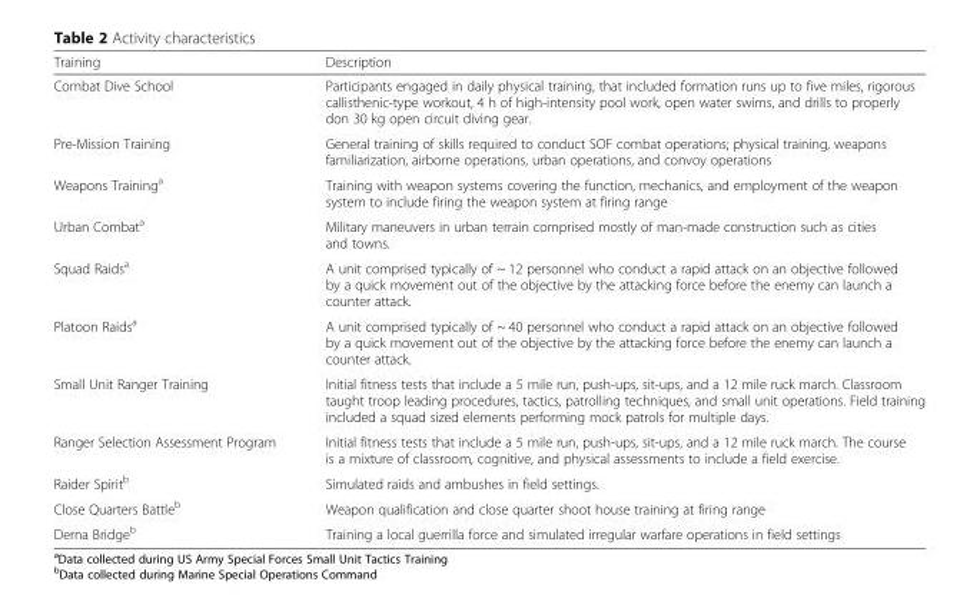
<table><thead><tr><td>Training</td><td>Description</td></tr></thead><tbody><tr><td>Combat Dive School</td><td>Participants engaged in daily physical training, that included formation runs up to five miles, rigorous callisthenic-type workout, 4 h of high-intensity pool work, open water swims, and drills to properly don 30 kg open circuit diving gear.</td></tr><tr><td>Pre-Mission Training</td><td>General training of skills required to conduct SOF combat operations; physical training, weapons familiarization, airborne operations, urban operations, and convoy operations</td></tr><tr><td>Weapons Training<sup>a</sup></td><td>Training with weapon systems covering the function, mechanics, and employment of the weapon system to include firing the weapon system at firing range</td></tr><tr><td>Urban Combat<sup>a</sup></td><td>Military maneuvers in urban terrain comprised mostly of man-made construction such as cities and towns.</td></tr><tr><td>Squad Raids<sup>a</sup></td><td>A unit comprised typically of ~ 12 personnel who conduct a rapid attack on an objective followed by a quick movement out of the objective by the attacking force before the enemy can launch a counter attack.</td></tr><tr><td>Platoon Raids<sup>a</sup></td><td>A unit comprised typically of ~ 40 personnel who conduct a rapid attack on an objective followed by a quick movement out of the objective by the attacking force before the enemy can launch a counter attack.</td></tr><tr><td>Small Unit Ranger Training</td><td>Initial fitness tests that include a 5 mile run, push-ups, sit-ups, and a 12 mile ruck march. Classroom taught troop leading procedures, tactics, patrolling techniques, and small unit operations. Field training included a squad sized elements performing mock patrols for multiple days.</td></tr><tr><td>Ranger Selection Assessment Program</td><td>Initial fitness tests that include a 5 mile run, push-ups, sit-ups, and a 12 mile ruck march. The course is a mixture of classroom, cognitive, and physical assessments to include a field exercise.</td></tr><tr><td>Raider Spirit<sup>b</sup></td><td>Simulated raids and ambushes in field settings.</td></tr><tr><td>Close Quarters Battle<sup>b</sup></td><td>Weapon qualification and close quarter shoot house training at firing range</td></tr><tr><td>Derna Bridge<sup>b</sup></td><td>Training a local guerrilla force and simulated irregular warfare operations in field settings</td></tr></tbody></table>